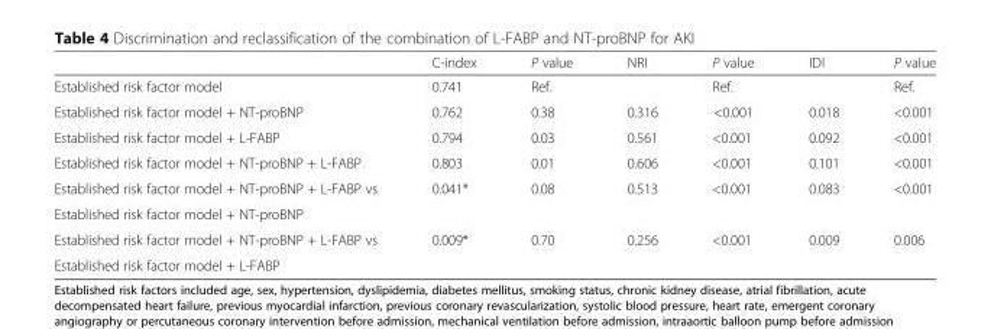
<table><thead><tr><td></td><td>C-index</td><td>P value</td><td>NRI</td><td>P value</td><td>IDI</td><td>P value</td></tr></thead><tbody><tr><td>Established risk factor model</td><td>0.741</td><td>Ref.</td><td></td><td>Ref.</td><td></td><td>Ref.</td></tr><tr><td>Established risk factor model + NT-proBNP</td><td>0.762</td><td>0.38</td><td>0.316</td><td>&lt;0.001</td><td>0.018</td><td>&lt;0.001</td></tr><tr><td>Established risk factor model + L-FABP</td><td>0.794</td><td>0.03</td><td>0.561</td><td>&lt;0.001</td><td>0.092</td><td>&lt;0.001</td></tr><tr><td>Established risk factor model + NT-proBNP + L-FABP</td><td>0.803</td><td>0.01</td><td>0.606</td><td>&lt;0.001</td><td>0.101</td><td>&lt;0.001</td></tr><tr><td>Established risk factor model + NT-proBNP + L-FABP vs</td><td rowspan="2">0.041*</td><td rowspan="2">0.08</td><td rowspan="2">0.513</td><td rowspan="2">&lt;0.001</td><td rowspan="2">0.083</td><td rowspan="2">&lt;0.001</td></tr><tr><td>Established risk factor model + NT-proBNP</td></tr><tr><td>Established risk factor model + NT-proBNP + L-FABP vs</td><td rowspan="2">0.009*</td><td rowspan="2">0.70</td><td rowspan="2">0.256</td><td rowspan="2">&lt;0.001</td><td rowspan="2">0.009</td><td rowspan="2">0.006</td></tr><tr><td>Established risk factor model + L-FABP</td></tr></tbody></table>